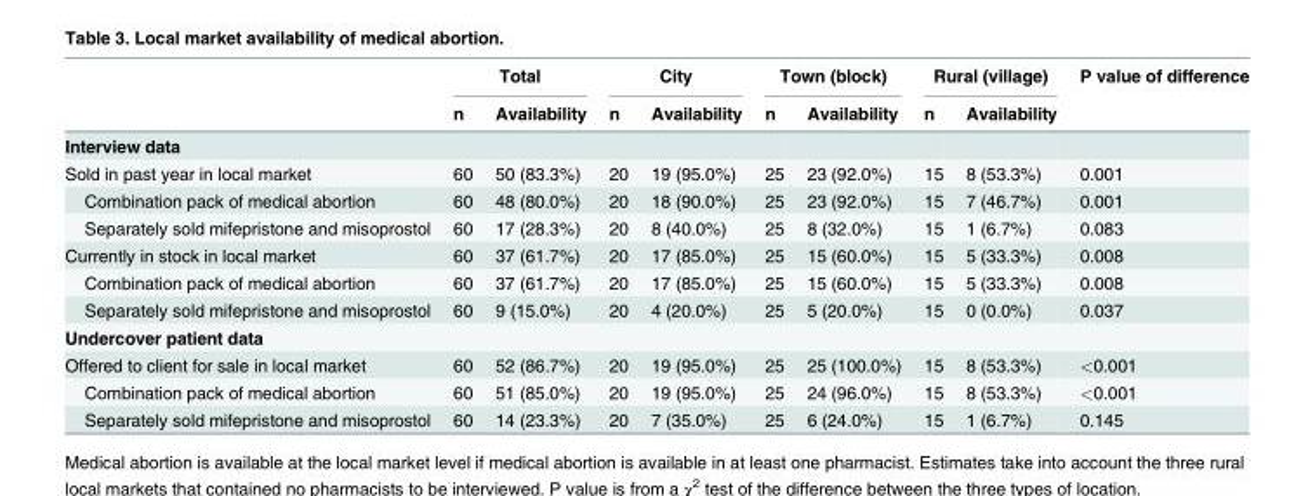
<table><thead><tr><td rowspan="2"></td><td colspan="2">Total</td><td colspan="2">City</td><td colspan="2">Town (block)</td><td colspan="2">Rural (village)</td><td rowspan="2">P value of difference</td></tr><tr><td>n</td><td>Availability</td><td>n</td><td>Availability</td><td>n</td><td>Availability</td><td>n</td><td>Availability</td></tr></thead><tbody><tr><td colspan="10">Interview data</td></tr><tr><td>Sold in past year in local market</td><td>60</td><td>50 (83.3%)</td><td>20</td><td>19 (95.0%)</td><td>25</td><td>23 (92.0%)</td><td>15</td><td>8 (53.3%)</td><td>0.001</td></tr><tr><td>Combination pack of medical abortion</td><td>60</td><td>48 (80.0%)</td><td>20</td><td>18 (90.0%)</td><td>25</td><td>23 (92.0%)</td><td>15</td><td>7 (46.7%)</td><td>0.001</td></tr><tr><td>Separately sold mifepristone and misoprostol</td><td>60</td><td>17 (28.3%)</td><td>20</td><td>8 (40.0%)</td><td>25</td><td>8 (32.0%)</td><td>15</td><td>1 (6.7%)</td><td>0.083</td></tr><tr><td>Currently in stock in local market</td><td>60</td><td>37 (61.7%)</td><td>20</td><td>17 (85.0%)</td><td>25</td><td>15 (60.0%)</td><td>15</td><td>5 (33.3%)</td><td>0.008</td></tr><tr><td>Combination pack of medical abortion</td><td>60</td><td>37 (61.7%)</td><td>20</td><td>17 (85.0%)</td><td>25</td><td>15 (60.0%)</td><td>15</td><td>5 (33.3%)</td><td>0.008</td></tr><tr><td>Separately sold mifepristone and misoprostol</td><td>60</td><td>9 (15.0%)</td><td>20</td><td>4 (20.0%)</td><td>25</td><td>5 (20.0%)</td><td>15</td><td>0 (0.0%)</td><td>0.037</td></tr><tr><td colspan="10">Undercover patient data</td></tr><tr><td>Offered to client for sale in local market</td><td>60</td><td>52 (86.7%)</td><td>20</td><td>19 (95.0%)</td><td>25</td><td>25 (100.0%)</td><td>15</td><td>8 (53.3%)</td><td>&lt;0.001</td></tr><tr><td>Combination pack of medical abortion</td><td>60</td><td>51 (85.0%)</td><td>20</td><td>19 (95.0%)</td><td>25</td><td>24 (96.0%)</td><td>15</td><td>8 (53.3%)</td><td>&lt;0.001</td></tr><tr><td>Separately sold mifepristone and misoprostol</td><td>60</td><td>14 (23.3%)</td><td>20</td><td>7 (35.0%)</td><td>25</td><td>6 (24.0%)</td><td>15</td><td>1 (6.7%)</td><td>0.145</td></tr></tbody></table>